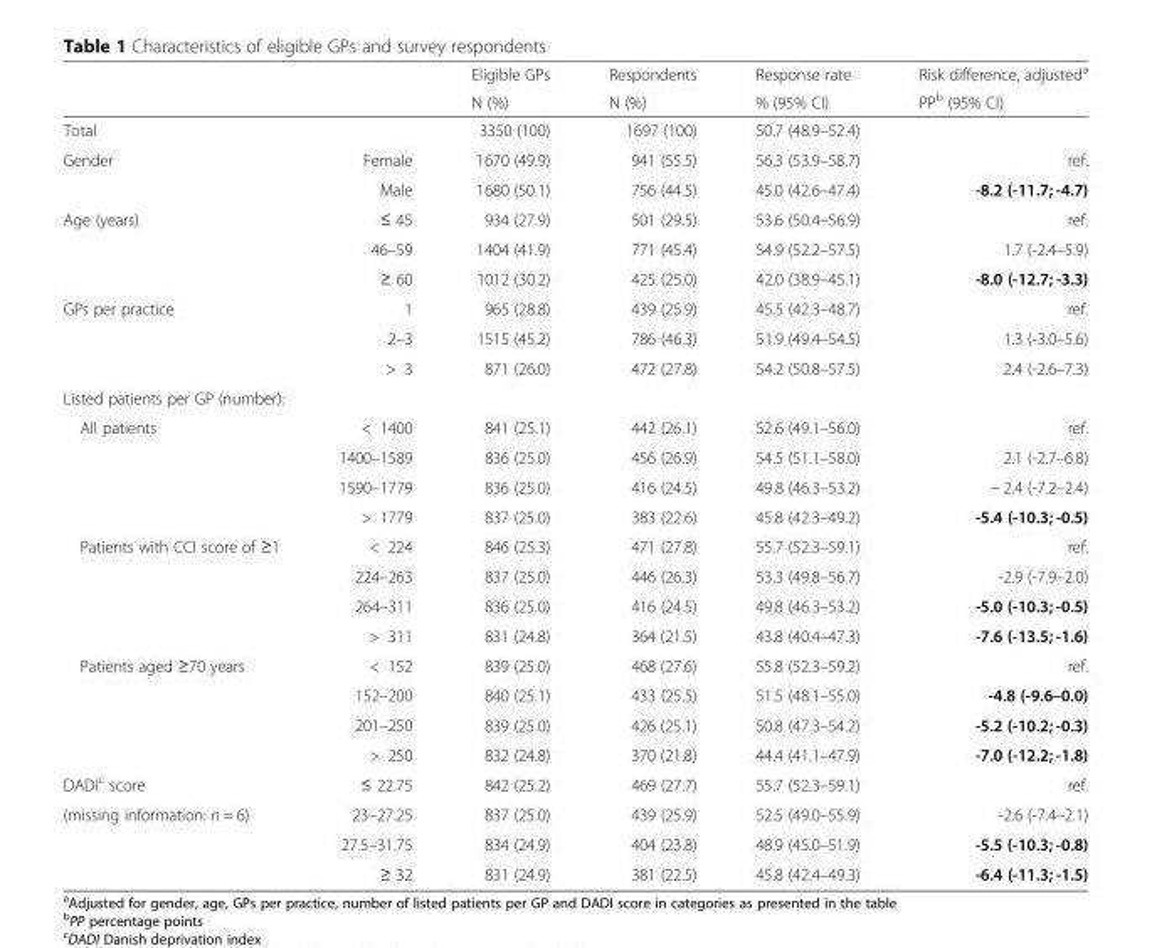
<table><thead><tr><td rowspan="2"></td><td rowspan="2"></td><td rowspan="2">Eligible GPs N (%)</td><td rowspan="2">Respondents N (%)</td><td rowspan="2">Response rate % (95% CI)</td><td rowspan="2">Risk difference, adjusted<sup>a</sup> PP<sup>b</sup> (95% CI)</td></tr><tr></tr></thead><tbody><tr><td>Total</td><td></td><td>3350 (100)</td><td>1697 (100)</td><td>50.7 (48.9–52.4)</td><td></td></tr><tr><td rowspan="2">Gender</td><td>Female</td><td>1670 (49.9)</td><td>941 (55.5)</td><td>56.3 (53.9–58.7)</td><td>ref.</td></tr><tr><td>Male</td><td>1680 (50.1)</td><td>756 (44.5)</td><td>45.0 (42.6–47.4)</td><td>-8.2 (-11.7; -4.7)</td></tr><tr><td rowspan="3">Age (years)</td><td>≤ 45</td><td>934 (27.9)</td><td>501 (29.5)</td><td>53.6 (50.4–56.9)</td><td>ref.</td></tr><tr><td>46–59</td><td>1404 (41.9)</td><td>771 (45.4)</td><td>54.9 (52.2–57.5)</td><td>1.7 (-2.4–5.9)</td></tr><tr><td>≥ 60</td><td>1012 (30.2)</td><td>425 (25.0)</td><td>42.0 (38.9–45.1)</td><td>-8.0 (-12.7; -3.3)</td></tr><tr><td rowspan="3">GPs per practice</td><td>1</td><td>965 (28.8)</td><td>439 (25.9)</td><td>45.5 (42.3–48.7)</td><td>ref.</td></tr><tr><td>2–3</td><td>1515 (45.2)</td><td>786 (46.3)</td><td>51.9 (49.4–54.5)</td><td>1.3 (-3.0–5.6)</td></tr><tr><td>&gt; 3</td><td>871 (26.0)</td><td>472 (27.8)</td><td>54.2 (50.8–57.5)</td><td>2.4 (-2.6–7.3)</td></tr><tr><td colspan="6">Listed patients per GP (number):</td></tr><tr><td rowspan="4">All patients</td><td>&lt; 1400</td><td>841 (25.1)</td><td>442 (26.1)</td><td>52.6 (49.1–56.0)</td><td>ref.</td></tr><tr><td>1400–1589</td><td>836 (25.0)</td><td>456 (26.9)</td><td>54.5 (51.1–58.0)</td><td>2.1 (-2.7–6.8)</td></tr><tr><td>1590–1779</td><td>836 (25.0)</td><td>416 (24.5)</td><td>49.8 (46.3–53.2)</td><td>− 2.4 (-7.2–2.4)</td></tr><tr><td>&gt; 1779</td><td>837 (25.0)</td><td>383 (22.6)</td><td>45.8 (42.3–49.2)</td><td>-5.4 (-10.3; -0.5)</td></tr><tr><td rowspan="4">Patients with CCI score of ≥1</td><td>&lt; 224</td><td>846 (25.3)</td><td>471 (27.8)</td><td>55.7 (52.3–59.1)</td><td>ref.</td></tr><tr><td>224–263</td><td>837 (25.0)</td><td>446 (26.3)</td><td>53.3 (49.8–56.7)</td><td>-2.9 (-7.9–2.0)</td></tr><tr><td>264–311</td><td>836 (25.0)</td><td>416 (24.5)</td><td>49.8 (46.3–53.2)</td><td>-5.0 (-10.3; -0.5)</td></tr><tr><td>&gt; 311</td><td>831 (24.8)</td><td>364 (21.5)</td><td>43.8 (40.4–47.3)</td><td>-7.6 (-13.5; -1.6)</td></tr><tr><td rowspan="4">Patients aged ≥70 years</td><td>&lt; 152</td><td>839 (25.0)</td><td>468 (27.6)</td><td>55.8 (52.3–59.2)</td><td>ref.</td></tr><tr><td>152–200</td><td>840 (25.1)</td><td>433 (25.5)</td><td>51.5 (48.1–55.0)</td><td>-4.8 (-9.6–0.0)</td></tr><tr><td>201–250</td><td>839 (25.0)</td><td>426 (25.1)</td><td>50.8 (47.3–54.2)</td><td>-5.2 (-10.2; -0.3)</td></tr><tr><td>&gt; 250</td><td>832 (24.8)</td><td>370 (21.8)</td><td>44.4 (41.1–47.9)</td><td>-7.0 (-12.2; -1.8)</td></tr><tr><td>DADI<sup>c</sup> score</td><td>≤ 22.75</td><td>842 (25.2)</td><td>469 (27.7)</td><td>55.7 (52.3–59.1)</td><td>ref.</td></tr><tr><td rowspan="3">(missing information: n = 6)</td><td>23–27.25</td><td>837 (25.0)</td><td>439 (25.9)</td><td>52.5 (49.0–55.9)</td><td>-2.6 (-7.4–2.1)</td></tr><tr><td>27.5–31.75</td><td>834 (24.9)</td><td>404 (23.8)</td><td>48.9 (45.0–51.9)</td><td>-5.5 (-10.3; -0.8)</td></tr><tr><td>≥ 32</td><td>831 (24.9)</td><td>381 (22.5)</td><td>45.8 (42.4–49.3)</td><td>-6.4 (-11.3; -1.5)</td></tr></tbody></table>